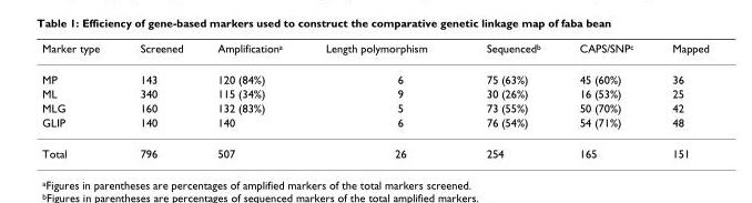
<table><thead><tr><td>Marker type</td><td>Screened</td><td>Amplification<sup>a</sup></td><td>Length polymorphism</td><td>Sequenced<sup>b</sup></td><td>CAPS/SNP<sup>c</sup></td><td>Mapped</td></tr></thead><tbody><tr><td>MP</td><td>143</td><td>120 (84%)</td><td>6</td><td>75 (63%)</td><td>45 (60%)</td><td>36</td></tr><tr><td>ML</td><td>340</td><td>115 (34%)</td><td>9</td><td>30 (26%)</td><td>16 (53%)</td><td>25</td></tr><tr><td>MLG</td><td>160</td><td>132 (83%)</td><td>5</td><td>73 (55%)</td><td>50 (70%)</td><td>42</td></tr><tr><td>GLIP</td><td>140</td><td>140</td><td>6</td><td>76 (54%)</td><td>54 (71%)</td><td>48</td></tr><tr><td>Total</td><td>796</td><td>507</td><td>26</td><td>254</td><td>165</td><td>151</td></tr></tbody></table>